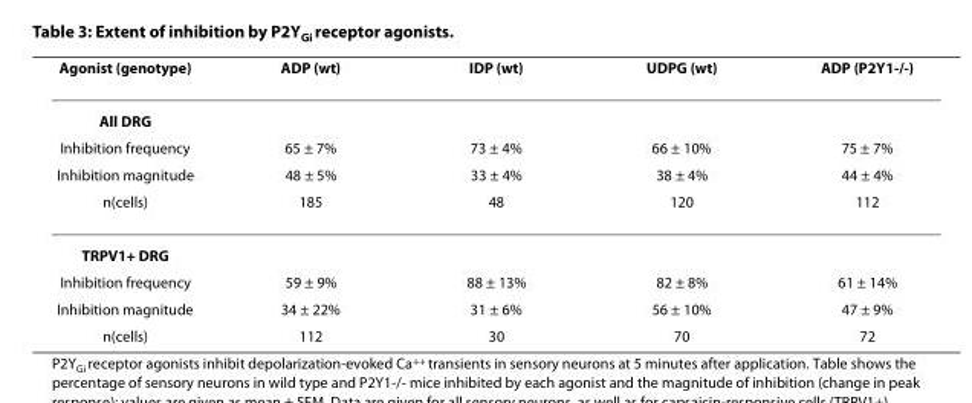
<table><thead><tr><td>Agonist (genotype)</td><td>ADP (wt)</td><td>IDP (wt)</td><td>UDPG (wt)</td><td>ADP (P2Y1-/-)</td></tr></thead><tbody><tr><td colspan="5">All DRG</td></tr><tr><td>Inhibition frequency</td><td>65 ± 7%</td><td>73 ± 4%</td><td>66 ± 10%</td><td>75 ± 7%</td></tr><tr><td>Inhibition magnitude</td><td>48 ± 5%</td><td>33 ± 4%</td><td>38 ± 4%</td><td>44 ± 4%</td></tr><tr><td>n(cells)</td><td>185</td><td>48</td><td>120</td><td>112</td></tr><tr><td colspan="5">TRPV1+ DRG</td></tr><tr><td>Inhibition frequency</td><td>59 ± 9%</td><td>88 ± 13%</td><td>82 ± 8%</td><td>61 ± 14%</td></tr><tr><td>Inhibition magnitude</td><td>34 ± 22%</td><td>31 ± 6%</td><td>56 ± 10%</td><td>47 ± 9%</td></tr><tr><td>n(cells)</td><td>112</td><td>30</td><td>70</td><td>72</td></tr></tbody></table>